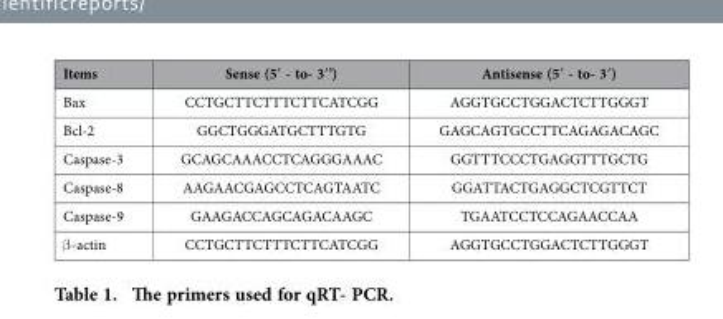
<table><thead><tr><td>Items</td><td>Sense (5′ - to- 3′’)</td><td>Antisense (5′ - to- 3′)</td></tr></thead><tbody><tr><td>Bax</td><td>CCTGCTTCTTTCTTCATCGG</td><td>AGGTGCCTGGACTCTTGGGT</td></tr><tr><td>Bcl-2</td><td>GGCTGGGATGCTTTGTG</td><td>GAGCAGTGCCTTCAGAGACAGC</td></tr><tr><td>Caspase-3</td><td>GCAGCAAACCTCAGGGAAAC</td><td>GGTTTCCCTGAGGTTTGCTG</td></tr><tr><td>Caspase-8</td><td>AAGAACGAGCCTCAGTAATC</td><td>GGATTACTGAGGCTCGTTCT</td></tr><tr><td>Caspase-9</td><td>GAAGACCAGCAGACAAGC</td><td>TGAATCCTCCAGAACCAA</td></tr><tr><td>β -actin</td><td>CCTGCTTCTTTCTTCATCGG</td><td>AGGTGCCTGGACTCTTGGGT</td></tr></tbody></table>